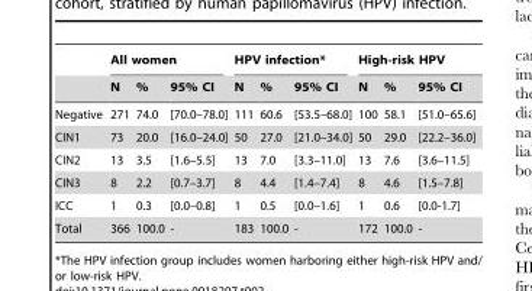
<table><thead><tr><td rowspan="2"></td><td colspan="3">All women</td><td colspan="3">HPV infection*</td><td colspan="3">High-risk HPV</td></tr><tr><td>N</td><td>%</td><td>95% CI</td><td>N</td><td>%</td><td>95% CI</td><td>N</td><td>%</td><td>95% CI</td></tr></thead><tbody><tr><td>Negative</td><td>271</td><td>74.0</td><td>[70.0–78.0]</td><td>111</td><td>60.6</td><td>[53.5–68.0]</td><td>100</td><td>58.1</td><td>[51.0–65.6]</td></tr><tr><td>CIN1</td><td>73</td><td>20.0</td><td>[16.0–24.0]</td><td>50</td><td>27.0</td><td>[21.0–34.0]</td><td>50</td><td>29.0</td><td>[22.2–36.0]</td></tr><tr><td>CIN2</td><td>13</td><td>3.5</td><td>[1.6–5.5]</td><td>13</td><td>7.0</td><td>[3.3–11.0]</td><td>13</td><td>7.6</td><td>[3.6–11.5]</td></tr><tr><td>CIN3</td><td>8</td><td>2.2</td><td>[0.7–3.7]</td><td>8</td><td>4.4</td><td>[1.4–7.4]</td><td>8</td><td>4.6</td><td>[1.5–7.8]</td></tr><tr><td>ICC</td><td>1</td><td>0.3</td><td>[0.0–0.8]</td><td>1</td><td>0.5</td><td>[0.0–1.6]</td><td>1</td><td>0.6</td><td>[0.0-1.7]</td></tr><tr><td>Total</td><td>366</td><td>100.0</td><td>-</td><td>183</td><td>100.0</td><td>-</td><td>172</td><td>100.0</td><td>-</td></tr></tbody></table>